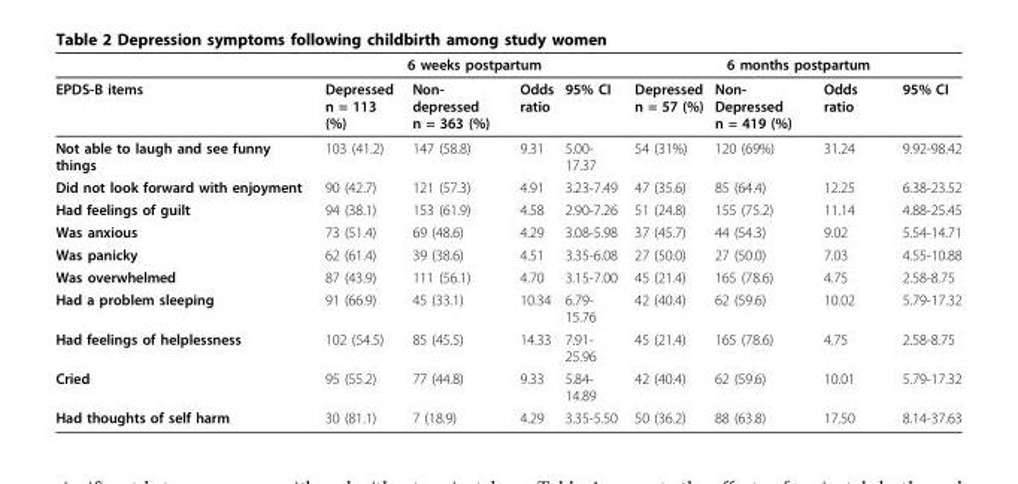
<table><thead><tr><td rowspan="2">EPDS-B items</td><td colspan="4">6 weeks postpartum</td><td colspan="4">6 months postpartum</td></tr><tr><td>Depressed n = 113 (%)</td><td>Non- depressed n = 363 (%)</td><td>Odds ratio</td><td>95% CI</td><td>Depressed n = 57 (%)</td><td>Non- Depressed n = 419 (%)</td><td>Odds ratio</td><td>95% CI</td></tr></thead><tbody><tr><td>Not able to laugh and see funny things</td><td>103 (41.2)</td><td>147 (58.8)</td><td>9.31</td><td>5.00- 17.37</td><td>54 (31%)</td><td>120 (69%)</td><td>31.24</td><td>9.92-98.42</td></tr><tr><td>Did not look forward with enjoyment</td><td>90 (42.7)</td><td>121 (57.3)</td><td>4.91</td><td>3.23-7.49</td><td>47 (35.6)</td><td>85 (64.4)</td><td>12.25</td><td>6.38-23.52</td></tr><tr><td>Had feelings of guilt</td><td>94 (38.1)</td><td>153 (61.9)</td><td>4.58</td><td>2.90-7.26</td><td>51 (24.8)</td><td>155 (75.2)</td><td>11.14</td><td>4.88-25.45</td></tr><tr><td>Was anxious</td><td>73 (51.4)</td><td>69 (48.6)</td><td>4.29</td><td>3.08-5.98</td><td>37 (45.7)</td><td>44 (54.3)</td><td>9.02</td><td>5.54-14.71</td></tr><tr><td>Was panicky</td><td>62 (61.4)</td><td>39 (38.6)</td><td>4.51</td><td>3.35-6.08</td><td>27 (50.0)</td><td>27 (50.0)</td><td>7.03</td><td>4.55-10.88</td></tr><tr><td>Was overwhelmed</td><td>87 (43.9)</td><td>111 (56.1)</td><td>4.70</td><td>3.15-7.00</td><td>45 (21.4)</td><td>165 (78.6)</td><td>4.75</td><td>2.58-8.75</td></tr><tr><td>Had a problem sleeping</td><td>91 (66.9)</td><td>45 (33.1)</td><td>10.34</td><td>6.79- 15.76</td><td>42 (40.4)</td><td>62 (59.6)</td><td>10.02</td><td>5.79-17.32</td></tr><tr><td>Had feelings of helplessness</td><td>102 (54.5)</td><td>85 (45.5)</td><td>14.33</td><td>7.91- 25.96</td><td>45 (21.4)</td><td>165 (78.6)</td><td>4.75</td><td>2.58-8.75</td></tr><tr><td>Cried</td><td>95 (55.2)</td><td>77 (44.8)</td><td>9.33</td><td>5.84- 14.89</td><td>42 (40.4)</td><td>62 (59.6)</td><td>10.01</td><td>5.79-17.32</td></tr><tr><td>Had thoughts of self harm</td><td>30 (81.1)</td><td>7 (18.9)</td><td>4.29</td><td>3.35-5.50</td><td>50 (36.2)</td><td>88 (63.8)</td><td>17.50</td><td>8.14-37.63</td></tr></tbody></table>